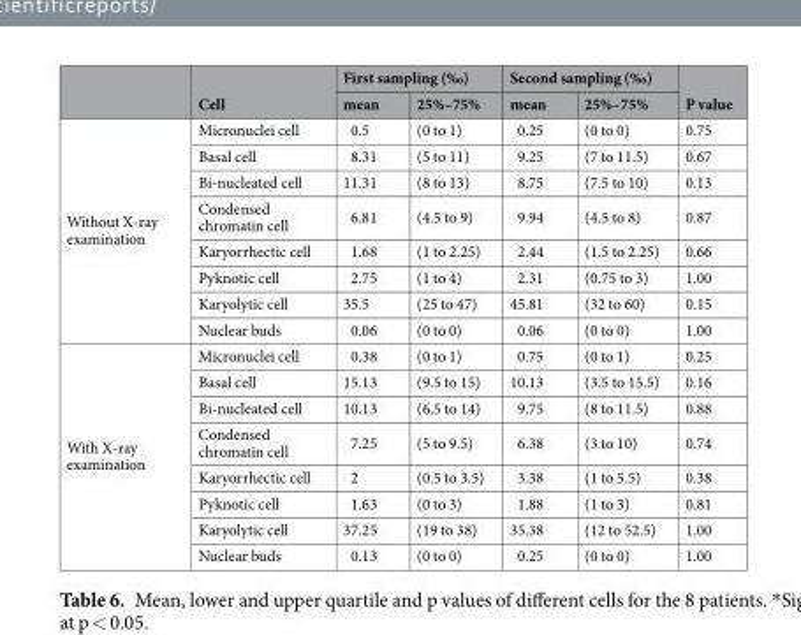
<table><thead><tr><td rowspan="2"></td><td rowspan="2">Cell</td><td colspan="2">First sampling (‰)</td><td colspan="2">Second sampling (‰)</td><td rowspan="2">P value</td></tr><tr><td>mean</td><td>25%–75%</td><td>mean</td><td>25%–75%</td></tr></thead><tbody><tr><td rowspan="8">Without X-ray examination</td><td>Micronuclei cell</td><td>0.5</td><td>(0 to 1)</td><td>0.25</td><td>(0 to 0)</td><td>0.75</td></tr><tr><td>Basal cell</td><td>8.31</td><td>(5 to 11)</td><td>9.25</td><td>(7 to 11.5)</td><td>0.67</td></tr><tr><td>Bi-nucleated cell</td><td>11.31</td><td>(8 to 13)</td><td>8.75</td><td>(7.5 to 10)</td><td>0.13</td></tr><tr><td>Condensed chromatin cell</td><td>6.81</td><td>(4.5 to 9)</td><td>9.94</td><td>(4.5 to 8)</td><td>0.87</td></tr><tr><td>Karyorrhectic cell</td><td>1.68</td><td>(1 to 2.25)</td><td>2.44</td><td>(1.5 to 2.25)</td><td>0.66</td></tr><tr><td>Pyknotic cell</td><td>2.75</td><td>(1 to 4)</td><td>2.31</td><td>(0.75 to 3)</td><td>1.00</td></tr><tr><td>Karyolytic cell</td><td>35.5</td><td>(25 to 47)</td><td>45.81</td><td>(32 to 60)</td><td>0.15</td></tr><tr><td>Nuclear buds</td><td>0.06</td><td>(0 to 0)</td><td>0.06</td><td>(0 to 0)</td><td>1.00</td></tr><tr><td rowspan="8">With X-ray examination</td><td>Micronuclei cell</td><td>0.38</td><td>(0 to 1)</td><td>0.75</td><td>(0 to 1)</td><td>0.25</td></tr><tr><td>Basal cell</td><td>15.13</td><td>(9.5 to 15)</td><td>10.13</td><td>(3.5 to 15.5)</td><td>0.16</td></tr><tr><td>Bi-nucleated cell</td><td>10.13</td><td>(6.5 to 14)</td><td>9.75</td><td>(8 to 11.5)</td><td>0.88</td></tr><tr><td>Condensed chromatin cell</td><td>7.25</td><td>(5 to 9.5)</td><td>6.38</td><td>(3 to 10)</td><td>0.74</td></tr><tr><td>Karyorrhectic cell</td><td>2</td><td>(0.5 to 3.5)</td><td>3.38</td><td>(1 to 5.5)</td><td>0.38</td></tr><tr><td>Pyknotic cell</td><td>1.63</td><td>(0 to 3)</td><td>1.88</td><td>(1 to 3)</td><td>0.81</td></tr><tr><td>Karyolytic cell</td><td>37.25</td><td>(19 to 38)</td><td>35.38</td><td>(12 to 52.5)</td><td>1.00</td></tr><tr><td>Nuclear buds</td><td>0.13</td><td>(0 to 0)</td><td>0.25</td><td>(0 to 0)</td><td>1.00</td></tr></tbody></table>